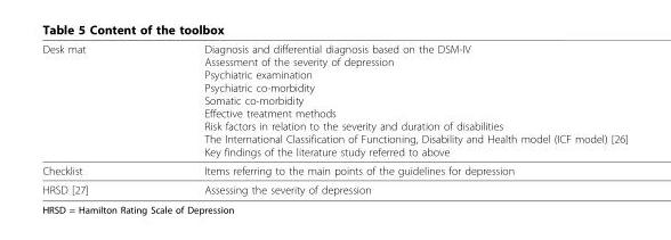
<table><thead><tr><td>Desk mat</td><td>Diagnosis and differential diagnosis based on the DSM-IV Assessment of the severity of depression Psychiatric examination Psychiatric co-morbidity Somatic co-morbidity Effective treatment methods Risk factors in relation to the severity and duration of disabilities The International Classification of Functioning, Disability and Health model (ICF model) [26] Key findings of the literature study referred to above</td></tr></thead><tbody><tr><td>Checklist</td><td>Items referring to the main points of the guidelines for depression</td></tr><tr><td>HRSD [27]</td><td>Assessing the severity of depression</td></tr></tbody></table>